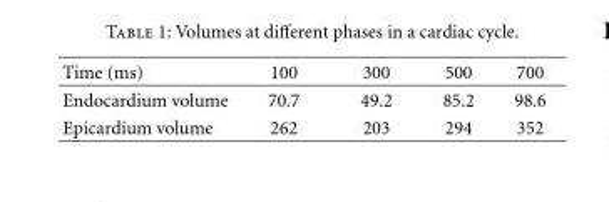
<table><thead><tr><td>Time (ms)</td><td>100</td><td>300</td><td>500</td><td>700</td></tr></thead><tbody><tr><td>Endocardium volume</td><td>70.7</td><td>49.2</td><td>85.2</td><td>98.6</td></tr><tr><td>Epicardium volume</td><td>262</td><td>203</td><td>294</td><td>352</td></tr></tbody></table>